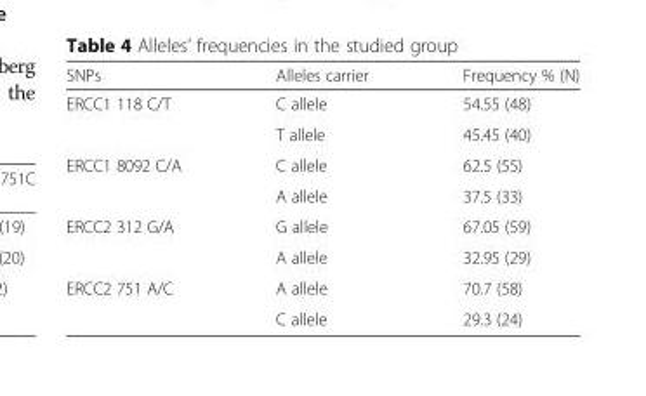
<table><thead><tr><td>SNPs</td><td>Alleles carrier</td><td>Frequency % (N)</td></tr></thead><tbody><tr><td rowspan="2">ERCC1 118 C/T</td><td>C allele</td><td>54.55 (48)</td></tr><tr><td>T allele</td><td>45.45 (40)</td></tr><tr><td rowspan="2">ERCC1 8092 C/A</td><td>C allele</td><td>62.5 (55)</td></tr><tr><td>A allele</td><td>37.5 (33)</td></tr><tr><td rowspan="2">ERCC2 312 G/A</td><td>G allele</td><td>67.05 (59)</td></tr><tr><td>A allele</td><td>32.95 (29)</td></tr><tr><td rowspan="2">ERCC2 751 A/C</td><td>A allele</td><td>70.7 (58)</td></tr><tr><td>C allele</td><td>29.3 (24)</td></tr></tbody></table>